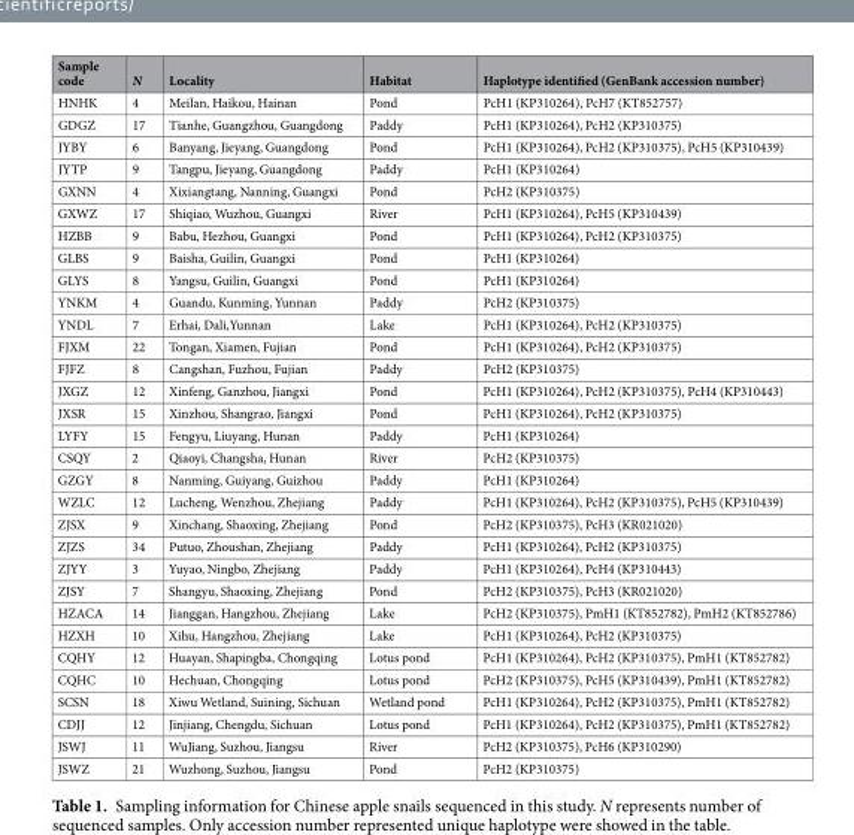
<table><thead><tr><td>Sample code</td><td>N</td><td>Locality</td><td>Habitat</td><td>Haplotype identified (GenBank accession number)</td></tr></thead><tbody><tr><td>HNHK</td><td>4</td><td>Meilan, Haikou, Hainan</td><td>Pond</td><td>PcH1 (KP310264), PcH7 (KT852757)</td></tr><tr><td>GDGZ</td><td>17</td><td>Tianhe, Guangzhou, Guangdong</td><td>Paddy</td><td>PcH1 (KP310264), PcH2 (KP310375)</td></tr><tr><td>JYBY</td><td>6</td><td>Banyang, Jieyang, Guangdong</td><td>Pond</td><td>PcH1 (KP310264), PcH2 (KP310375), PcH5 (KP310439)</td></tr><tr><td>JYTP</td><td>9</td><td>Tangpu, Jieyang, Guangdong</td><td>Paddy</td><td>PcH1 (KP310264)</td></tr><tr><td>GXNN</td><td>4</td><td>Xixiangtang, Nanning, Guangxi</td><td>Pond</td><td>PcH2 (KP310375)</td></tr><tr><td>GXWZ</td><td>17</td><td>Shiqiao, Wuzhou, Guangxi</td><td>River</td><td>PcH1 (KP310264), PcH5 (KP310439)</td></tr><tr><td>HZBB</td><td>9</td><td>Babu, Hezhou, Guangxi</td><td>Pond</td><td>PcH1 (KP310264), PcH2 (KP310375)</td></tr><tr><td>GLBS</td><td>9</td><td>Baisha, Guilin, Guangxi</td><td>Pond</td><td>PcH1 (KP310264)</td></tr><tr><td>GLYS</td><td>8</td><td>Yangsu, Guilin, Guangxi</td><td>Pond</td><td>PcH1 (KP310264)</td></tr><tr><td>YNKM</td><td>4</td><td>Guandu, Kunming, Yunnan</td><td>Paddy</td><td>PcH2 (KP310375)</td></tr><tr><td>YNDL</td><td>7</td><td>Erhai, Dali,Yunnan</td><td>Lake</td><td>PcH1 (KP310264), PcH2 (KP310375)</td></tr><tr><td>FJXM</td><td>22</td><td>Tongan, Xiamen, Fujian</td><td>Pond</td><td>PcH1 (KP310264), PcH2 (KP310375)</td></tr><tr><td>FJFZ</td><td>8</td><td>Cangshan, Fuzhou, Fujian</td><td>Paddy</td><td>PcH2 (KP310375)</td></tr><tr><td>JXGZ</td><td>12</td><td>Xinfeng, Ganzhou, Jiangxi</td><td>Pond</td><td>PcH1 (KP310264), PcH2 (KP310375), PcH4 (KP310443)</td></tr><tr><td>JXSR</td><td>15</td><td>Xinzhou, Shangrao, Jiangxi</td><td>Pond</td><td>PcH1 (KP310264), PcH2 (KP310375)</td></tr><tr><td>LYFY</td><td>15</td><td>Fengyu, Liuyang, Hunan</td><td>Paddy</td><td>PcH1 (KP310264)</td></tr><tr><td>CSQY</td><td>2</td><td>Qiaoyi, Changsha, Hunan</td><td>River</td><td>PcH2 (KP310375)</td></tr><tr><td>GZGY</td><td>8</td><td>Nanming, Guiyang, Guizhou</td><td>Paddy</td><td>PcH1 (KP310264)</td></tr><tr><td>WZLC</td><td>12</td><td>Lucheng, Wenzhou, Zhejiang</td><td>Paddy</td><td>PcH1 (KP310264), PcH2 (KP310375), PcH5 (KP310439)</td></tr><tr><td>ZJSX</td><td>9</td><td>Xinchang, Shaoxing, Zhejiang</td><td>Pond</td><td>PcH2 (KP310375), PcH3 (KR021020)</td></tr><tr><td>ZJZS</td><td>34</td><td>Putuo, Zhoushan, Zhejiang</td><td>Paddy</td><td>PcH1 (KP310264), PcH2 (KP310375)</td></tr><tr><td>ZJYY</td><td>3</td><td>Yuyao, Ningbo, Zhejiang</td><td>Paddy</td><td>PcH1 (KP310264), PcH4 (KP310443)</td></tr><tr><td>ZJSY</td><td>7</td><td>Shangyu, Shaoxing, Zhejiang</td><td>Pond</td><td>PcH2 (KP310375), PcH3 (KR021020)</td></tr><tr><td>HZACA</td><td>14</td><td>Jianggan, Hangzhou, Zhejiang</td><td>Lake</td><td>PcH2 (KP310375), PmH1 (KT852782), PmH2 (KT852786)</td></tr><tr><td>HZXH</td><td>10</td><td>Xihu, Hangzhou, Zhejiang</td><td>Lake</td><td>PcH1 (KP310264), PcH2 (KP310375)</td></tr><tr><td>CQHY</td><td>12</td><td>Huayan, Shapingba, Chongqing</td><td>Lotus pond</td><td>PcH1 (KP310264), PcH2 (KP310375), PmH1 (KT852782)</td></tr><tr><td>CQHC</td><td>10</td><td>Hechuan, Chongqing</td><td>Lotus pond</td><td>PcH2 (KP310375), PcH5 (KP310439), PmH1 (KT852782)</td></tr><tr><td>SCSN</td><td>18</td><td>Xiwu Wetland, Suining, Sichuan</td><td>Wetland pond</td><td>PcH1 (KP310264), PcH2 (KP310375), PmH1 (KT852782)</td></tr><tr><td>CDJJ</td><td>12</td><td>Jinjiang, Chengdu, Sichuan</td><td>Lotus pond</td><td>PcH1 (KP310264), PcH2 (KP310375), PmH1 (KT852782)</td></tr><tr><td>JSWJ</td><td>11</td><td>WuJiang, Suzhou, Jiangsu</td><td>River</td><td>PcH2 (KP310375), PcH6 (KP310290)</td></tr><tr><td>JSWZ</td><td>21</td><td>Wuzhong, Suzhou, Jiangsu</td><td>Pond</td><td>PcH2 (KP310375)</td></tr></tbody></table>